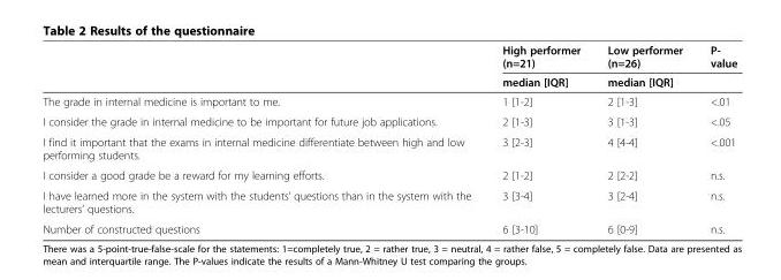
<table><thead><tr><td rowspan="2"></td><td rowspan="2">High performer (n=21) median [IQR]</td><td rowspan="2">Low performer (n=26) median [IQR]</td><td rowspan="2">P- value</td></tr><tr></tr></thead><tbody><tr><td>The grade in internal medicine is important to me.</td><td>1 [1-2]</td><td>2 [1-3]</td><td>&lt;.01</td></tr><tr><td>I consider the grade in internal medicine to be important for future job applications.</td><td>2 [1-3]</td><td>3 [1-3]</td><td>&lt;.05</td></tr><tr><td>I find it important that the exams in internal medicine differentiate between high and low performing students.</td><td>3 [2-3]</td><td>4 [4-4]</td><td>&lt;.001</td></tr><tr><td>I consider a good grade be a reward for my learning efforts.</td><td>2 [1-2]</td><td>2 [2-2]</td><td>n.s.</td></tr><tr><td>I have learned more in the system with the students’ questions than in the system with the lecturers’ questions.</td><td>3 [3-4]</td><td>3 [2-4]</td><td>n.s.</td></tr><tr><td>Number of constructed questions</td><td>6 [3-10]</td><td>6 [0-9]</td><td>n.s.</td></tr></tbody></table>